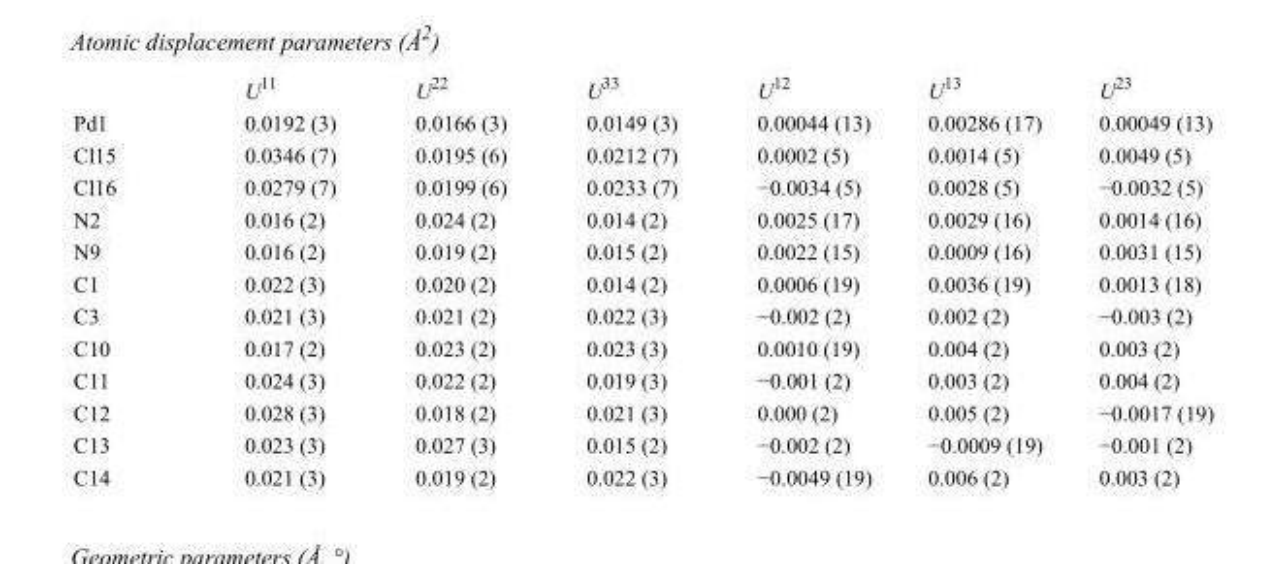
<table><thead><tr><td></td><td>U<sup>11</sup></td><td>U<sup>22</sup></td><td>U<sup>33</sup></td><td>U<sup>12</sup></td><td>U<sup>13</sup></td><td>U<sup>23</sup></td></tr></thead><tbody><tr><td>Pd1</td><td>0.0192 (3)</td><td>0.0166 (3)</td><td>0.0149 (3)</td><td>0.00044 (13)</td><td>0.00286 (17)</td><td>0.00049 (13)</td></tr><tr><td>Cl15</td><td>0.0346 (7)</td><td>0.0195 (6)</td><td>0.0212 (7)</td><td>0.0002 (5)</td><td>0.0014 (5)</td><td>0.0049 (5)</td></tr><tr><td>Cl16</td><td>0.0279 (7)</td><td>0.0199 (6)</td><td>0.0233 (7)</td><td>−0.0034 (5)</td><td>0.0028 (5)</td><td>−0.0032 (5)</td></tr><tr><td>N2</td><td>0.016 (2)</td><td>0.024 (2)</td><td>0.014 (2)</td><td>0.0025 (17)</td><td>0.0029 (16)</td><td>0.0014 (16)</td></tr><tr><td>N9</td><td>0.016 (2)</td><td>0.019 (2)</td><td>0.015 (2)</td><td>0.0022 (15)</td><td>0.0009 (16)</td><td>0.0031 (15)</td></tr><tr><td>C1</td><td>0.022 (3)</td><td>0.020 (2)</td><td>0.014 (2)</td><td>0.0006 (19)</td><td>0.0036 (19)</td><td>0.0013 (18)</td></tr><tr><td>C3</td><td>0.021 (3)</td><td>0.021 (2)</td><td>0.022 (3)</td><td>−0.002 (2)</td><td>0.002 (2)</td><td>−0.003 (2)</td></tr><tr><td>C10</td><td>0.017 (2)</td><td>0.023 (2)</td><td>0.023 (3)</td><td>0.0010 (19)</td><td>0.004 (2)</td><td>0.003 (2)</td></tr><tr><td>C11</td><td>0.024 (3)</td><td>0.022 (2)</td><td>0.019 (3)</td><td>−0.001 (2)</td><td>0.003 (2)</td><td>0.004 (2)</td></tr><tr><td>C12</td><td>0.028 (3)</td><td>0.018 (2)</td><td>0.021 (3)</td><td>0.000 (2)</td><td>0.005 (2)</td><td>−0.0017 (19)</td></tr><tr><td>C13</td><td>0.023 (3)</td><td>0.027 (3)</td><td>0.015 (2)</td><td>−0.002 (2)</td><td>−0.0009 (19)</td><td>−0.001 (2)</td></tr><tr><td>C14</td><td>0.021 (3)</td><td>0.019 (2)</td><td>0.022 (3)</td><td>−0.0049 (19)</td><td>0.006 (2)</td><td>0.003 (2)</td></tr></tbody></table>